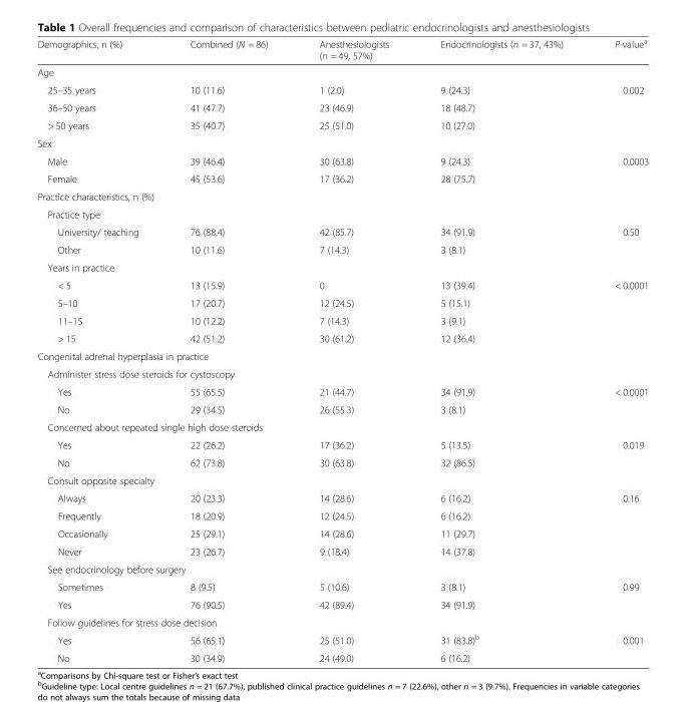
<table><thead><tr><td>Demographics, n (%)</td><td>Combined (N = 86)</td><td>Anesthesiologists (n = 49, 57%)</td><td>Endocrinologists (n = 37, 43%)</td><td>P-value<sup>a</sup></td></tr></thead><tbody><tr><td colspan="5">Age</td></tr><tr><td>25–35 years</td><td>10 (11.6)</td><td>1 (2.0)</td><td>9 (24.3)</td><td>0.002</td></tr><tr><td>36–50 years</td><td>41 (47.7)</td><td>23 (46.9)</td><td>18 (48.7)</td><td></td></tr><tr><td>&gt; 50 years</td><td>35 (40.7)</td><td>25 (51.0)</td><td>10 (27.0)</td><td></td></tr><tr><td colspan="5">Sex</td></tr><tr><td>Male</td><td>39 (46.4)</td><td>30 (63.8)</td><td>9 (24.3)</td><td>0.0003</td></tr><tr><td>Female</td><td>45 (53.6)</td><td>17 (36.2)</td><td>28 (75.7)</td><td></td></tr><tr><td colspan="5">Practice characteristics, n (%)</td></tr><tr><td colspan="5">Practice type</td></tr><tr><td>University/ teaching</td><td>76 (88.4)</td><td>42 (85.7)</td><td>34 (91.9)</td><td>0.50</td></tr><tr><td>Other</td><td>10 (11.6)</td><td>7 (14.3)</td><td>3 (8.1)</td><td></td></tr><tr><td colspan="5">Years in practice</td></tr><tr><td>&lt; 5</td><td>13 (15.9)</td><td>0</td><td>13 (39.4)</td><td>&lt; 0.0001</td></tr><tr><td>5–10</td><td>17 (20.7)</td><td>12 (24.5)</td><td>5 (15.1)</td><td></td></tr><tr><td>11–15</td><td>10 (12.2)</td><td>7 (14.3)</td><td>3 (9.1)</td><td></td></tr><tr><td>&gt; 15</td><td>42 (51.2)</td><td>30 (61.2)</td><td>12 (36.4)</td><td></td></tr><tr><td colspan="5">Congenital adrenal hyperplasia in practice</td></tr><tr><td colspan="5">Administer stress dose steroids for cystoscopy</td></tr><tr><td>Yes</td><td>55 (65.5)</td><td>21 (44.7)</td><td>34 (91.9)</td><td>&lt; 0.0001</td></tr><tr><td>No</td><td>29 (34.5)</td><td>26 (55.3)</td><td>3 (8.1)</td><td></td></tr><tr><td colspan="5">Concerned about repeated single high dose steroids</td></tr><tr><td>Yes</td><td>22 (26.2)</td><td>17 (36.2)</td><td>5 (13.5)</td><td>0.019</td></tr><tr><td>No</td><td>62 (73.8)</td><td>30 (63.8)</td><td>32 (86.5)</td><td></td></tr><tr><td colspan="5">Consult opposite specialty</td></tr><tr><td>Always</td><td>20 (23.3)</td><td>14 (28.6)</td><td>6 (16.2)</td><td>0.16</td></tr><tr><td>Frequently</td><td>18 (20.9)</td><td>12 (24.5)</td><td>6 (16.2)</td><td></td></tr><tr><td>Occasionally</td><td>25 (29.1)</td><td>14 (28.6)</td><td>11 (29.7)</td><td></td></tr><tr><td>Never</td><td>23 (26.7)</td><td>9 (18.4)</td><td>14 (37.8)</td><td></td></tr><tr><td colspan="5">See endocrinology before surgery</td></tr><tr><td>Sometimes</td><td>8 (9.5)</td><td>5 (10.6)</td><td>3 (8.1)</td><td>0.99</td></tr><tr><td>Yes</td><td>76 (90.5)</td><td>42 (89.4)</td><td>34 (91.9)</td><td></td></tr><tr><td colspan="5">Follow guidelines for stress dose decision</td></tr><tr><td>Yes</td><td>56 (65.1)</td><td>25 (51.0)</td><td>31 (83.8)<sup>b</sup></td><td>0.001</td></tr><tr><td>No</td><td>30 (34.9)</td><td>24 (49.0)</td><td>6 (16.2)</td><td></td></tr></tbody></table>